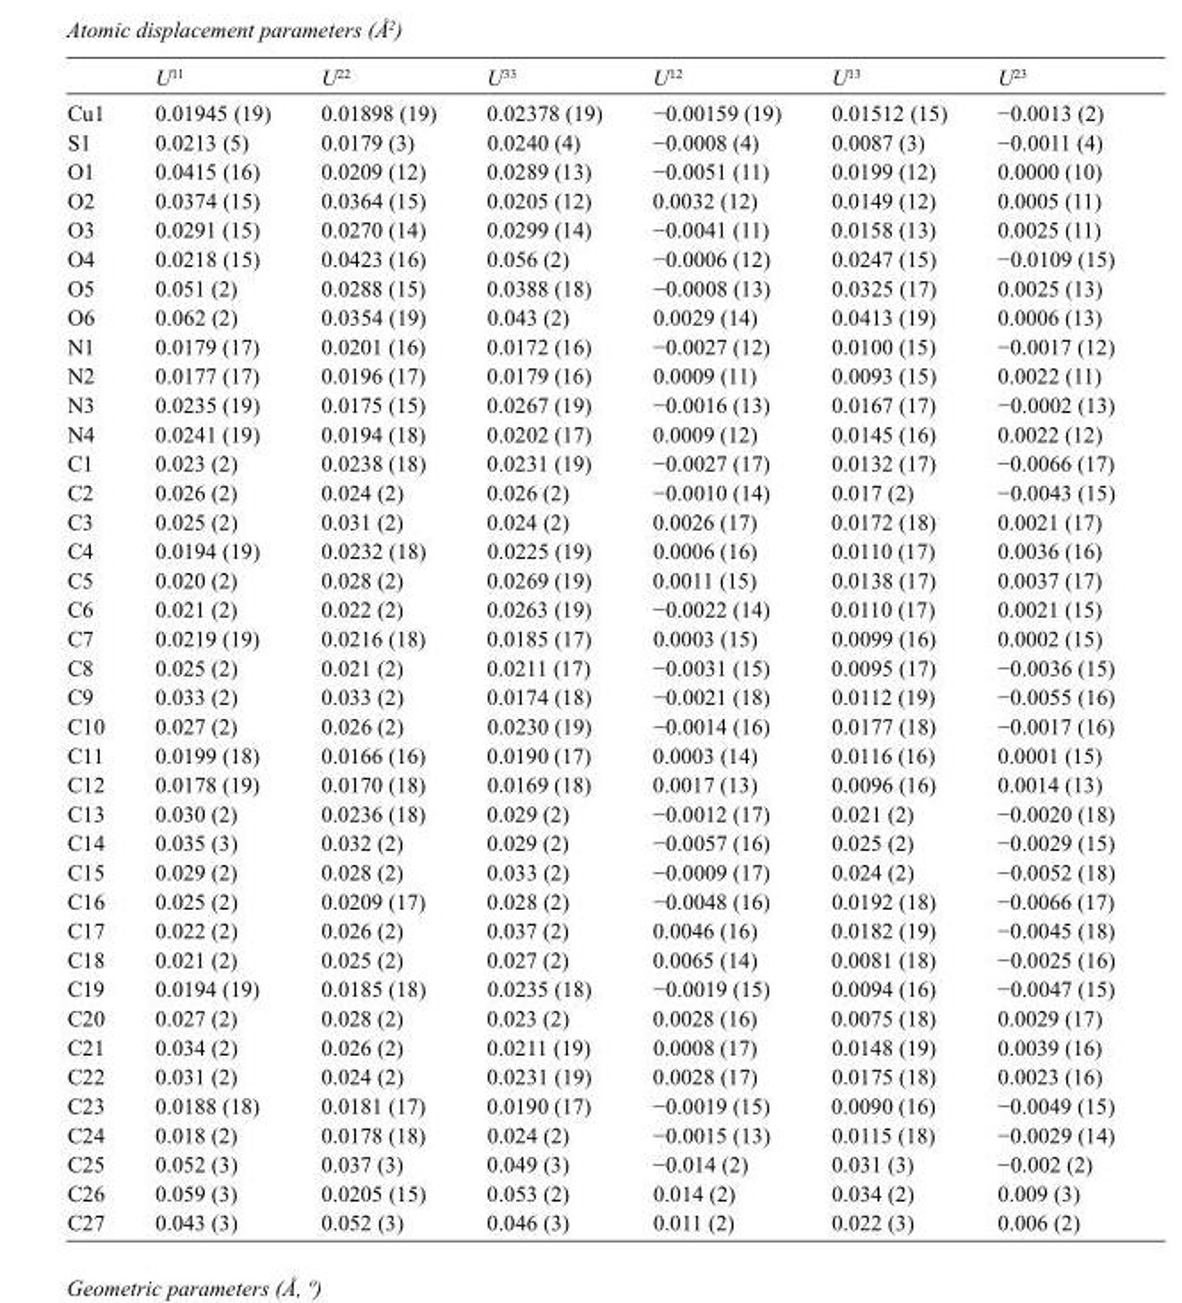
<table><thead><tr><td></td><td>U<sup>11</sup></td><td>U<sup>22</sup></td><td>U<sup>33</sup></td><td>U<sup>12</sup></td><td>U<sup>13</sup></td><td>U<sup>23</sup></td></tr></thead><tbody><tr><td>Cu1</td><td>0.01945 (19)</td><td>0.01898 (19)</td><td>0.02378 (19)</td><td>−0.00159 (19)</td><td>0.01512 (15)</td><td>−0.0013 (2)</td></tr><tr><td>S1</td><td>0.0213 (5)</td><td>0.0179 (3)</td><td>0.0240 (4)</td><td>−0.0008 (4)</td><td>0.0087 (3)</td><td>−0.0011 (4)</td></tr><tr><td>O1</td><td>0.0415 (16)</td><td>0.0209 (12)</td><td>0.0289 (13)</td><td>−0.0051 (11)</td><td>0.0199 (12)</td><td>0.0000 (10)</td></tr><tr><td>O2</td><td>0.0374 (15)</td><td>0.0364 (15)</td><td>0.0205 (12)</td><td>0.0032 (12)</td><td>0.0149 (12)</td><td>0.0005 (11)</td></tr><tr><td>O3</td><td>0.0291 (15)</td><td>0.0270 (14)</td><td>0.0299 (14)</td><td>−0.0041 (11)</td><td>0.0158 (13)</td><td>0.0025 (11)</td></tr><tr><td>O4</td><td>0.0218 (15)</td><td>0.0423 (16)</td><td>0.056 (2)</td><td>−0.0006 (12)</td><td>0.0247 (15)</td><td>−0.0109 (15)</td></tr><tr><td>O5</td><td>0.051 (2)</td><td>0.0288 (15)</td><td>0.0388 (18)</td><td>−0.0008 (13)</td><td>0.0325 (17)</td><td>0.0025 (13)</td></tr><tr><td>O6</td><td>0.062 (2)</td><td>0.0354 (19)</td><td>0.043 (2)</td><td>0.0029 (14)</td><td>0.0413 (19)</td><td>0.0006 (13)</td></tr><tr><td>N1</td><td>0.0179 (17)</td><td>0.0201 (16)</td><td>0.0172 (16)</td><td>−0.0027 (12)</td><td>0.0100 (15)</td><td>−0.0017 (12)</td></tr><tr><td>N2</td><td>0.0177 (17)</td><td>0.0196 (17)</td><td>0.0179 (16)</td><td>0.0009 (11)</td><td>0.0093 (15)</td><td>0.0022 (11)</td></tr><tr><td>N3</td><td>0.0235 (19)</td><td>0.0175 (15)</td><td>0.0267 (19)</td><td>−0.0016 (13)</td><td>0.0167 (17)</td><td>−0.0002 (13)</td></tr><tr><td>N4</td><td>0.0241 (19)</td><td>0.0194 (18)</td><td>0.0202 (17)</td><td>0.0009 (12)</td><td>0.0145 (16)</td><td>0.0022 (12)</td></tr><tr><td>C1</td><td>0.023 (2)</td><td>0.0238 (18)</td><td>0.0231 (19)</td><td>−0.0027 (17)</td><td>0.0132 (17)</td><td>−0.0066 (17)</td></tr><tr><td>C2</td><td>0.026 (2)</td><td>0.024 (2)</td><td>0.026 (2)</td><td>−0.0010 (14)</td><td>0.017 (2)</td><td>−0.0043 (15)</td></tr><tr><td>C3</td><td>0.025 (2)</td><td>0.031 (2)</td><td>0.024 (2)</td><td>0.0026 (17)</td><td>0.0172 (18)</td><td>0.0021 (17)</td></tr><tr><td>C4</td><td>0.0194 (19)</td><td>0.0232 (18)</td><td>0.0225 (19)</td><td>0.0006 (16)</td><td>0.0110 (17)</td><td>0.0036 (16)</td></tr><tr><td>C5</td><td>0.020 (2)</td><td>0.028 (2)</td><td>0.0269 (19)</td><td>0.0011 (15)</td><td>0.0138 (17)</td><td>0.0037 (17)</td></tr><tr><td>C6</td><td>0.021 (2)</td><td>0.022 (2)</td><td>0.0263 (19)</td><td>−0.0022 (14)</td><td>0.0110 (17)</td><td>0.0021 (15)</td></tr><tr><td>C7</td><td>0.0219 (19)</td><td>0.0216 (18)</td><td>0.0185 (17)</td><td>0.0003 (15)</td><td>0.0099 (16)</td><td>0.0002 (15)</td></tr><tr><td>C8</td><td>0.025 (2)</td><td>0.021 (2)</td><td>0.0211 (17)</td><td>−0.0031 (15)</td><td>0.0095 (17)</td><td>−0.0036 (15)</td></tr><tr><td>C9</td><td>0.033 (2)</td><td>0.033 (2)</td><td>0.0174 (18)</td><td>−0.0021 (18)</td><td>0.0112 (19)</td><td>−0.0055 (16)</td></tr><tr><td>C10</td><td>0.027 (2)</td><td>0.026 (2)</td><td>0.0230 (19)</td><td>−0.0014 (16)</td><td>0.0177 (18)</td><td>−0.0017 (16)</td></tr><tr><td>C11</td><td>0.0199 (18)</td><td>0.0166 (16)</td><td>0.0190 (17)</td><td>0.0003 (14)</td><td>0.0116 (16)</td><td>0.0001 (15)</td></tr><tr><td>C12</td><td>0.0178 (19)</td><td>0.0170 (18)</td><td>0.0169 (18)</td><td>0.0017 (13)</td><td>0.0096 (16)</td><td>0.0014 (13)</td></tr><tr><td>C13</td><td>0.030 (2)</td><td>0.0236 (18)</td><td>0.029 (2)</td><td>−0.0012 (17)</td><td>0.021 (2)</td><td>−0.0020 (18)</td></tr><tr><td>C14</td><td>0.035 (3)</td><td>0.032 (2)</td><td>0.029 (2)</td><td>−0.0057 (16)</td><td>0.025 (2)</td><td>−0.0029 (15)</td></tr><tr><td>C15</td><td>0.029 (2)</td><td>0.028 (2)</td><td>0.033 (2)</td><td>−0.0009 (17)</td><td>0.024 (2)</td><td>−0.0052 (18)</td></tr><tr><td>C16</td><td>0.025 (2)</td><td>0.0209 (17)</td><td>0.028 (2)</td><td>−0.0048 (16)</td><td>0.0192 (18)</td><td>−0.0066 (17)</td></tr><tr><td>C17</td><td>0.022 (2)</td><td>0.026 (2)</td><td>0.037 (2)</td><td>0.0046 (16)</td><td>0.0182 (19)</td><td>−0.0045 (18)</td></tr><tr><td>C18</td><td>0.021 (2)</td><td>0.025 (2)</td><td>0.027 (2)</td><td>0.0065 (14)</td><td>0.0081 (18)</td><td>−0.0025 (16)</td></tr><tr><td>C19</td><td>0.0194 (19)</td><td>0.0185 (18)</td><td>0.0235 (18)</td><td>−0.0019 (15)</td><td>0.0094 (16)</td><td>−0.0047 (15)</td></tr><tr><td>C20</td><td>0.027 (2)</td><td>0.028 (2)</td><td>0.023 (2)</td><td>0.0028 (16)</td><td>0.0075 (18)</td><td>0.0029 (17)</td></tr><tr><td>C21</td><td>0.034 (2)</td><td>0.026 (2)</td><td>0.0211 (19)</td><td>0.0008 (17)</td><td>0.0148 (19)</td><td>0.0039 (16)</td></tr><tr><td>C22</td><td>0.031 (2)</td><td>0.024 (2)</td><td>0.0231 (19)</td><td>0.0028 (17)</td><td>0.0175 (18)</td><td>0.0023 (16)</td></tr><tr><td>C23</td><td>0.0188 (18)</td><td>0.0181 (17)</td><td>0.0190 (17)</td><td>−0.0019 (15)</td><td>0.0090 (16)</td><td>−0.0049 (15)</td></tr><tr><td>C24</td><td>0.018 (2)</td><td>0.0178 (18)</td><td>0.024 (2)</td><td>−0.0015 (13)</td><td>0.0115 (18)</td><td>−0.0029 (14)</td></tr><tr><td>C25</td><td>0.052 (3)</td><td>0.037 (3)</td><td>0.049 (3)</td><td>−0.014 (2)</td><td>0.031 (3)</td><td>−0.002 (2)</td></tr><tr><td>C26</td><td>0.059 (3)</td><td>0.0205 (15)</td><td>0.053 (2)</td><td>0.014 (2)</td><td>0.034 (2)</td><td>0.009 (3)</td></tr><tr><td>C27</td><td>0.043 (3)</td><td>0.052 (3)</td><td>0.046 (3)</td><td>0.011 (2)</td><td>0.022 (3)</td><td>0.006 (2)</td></tr></tbody></table>